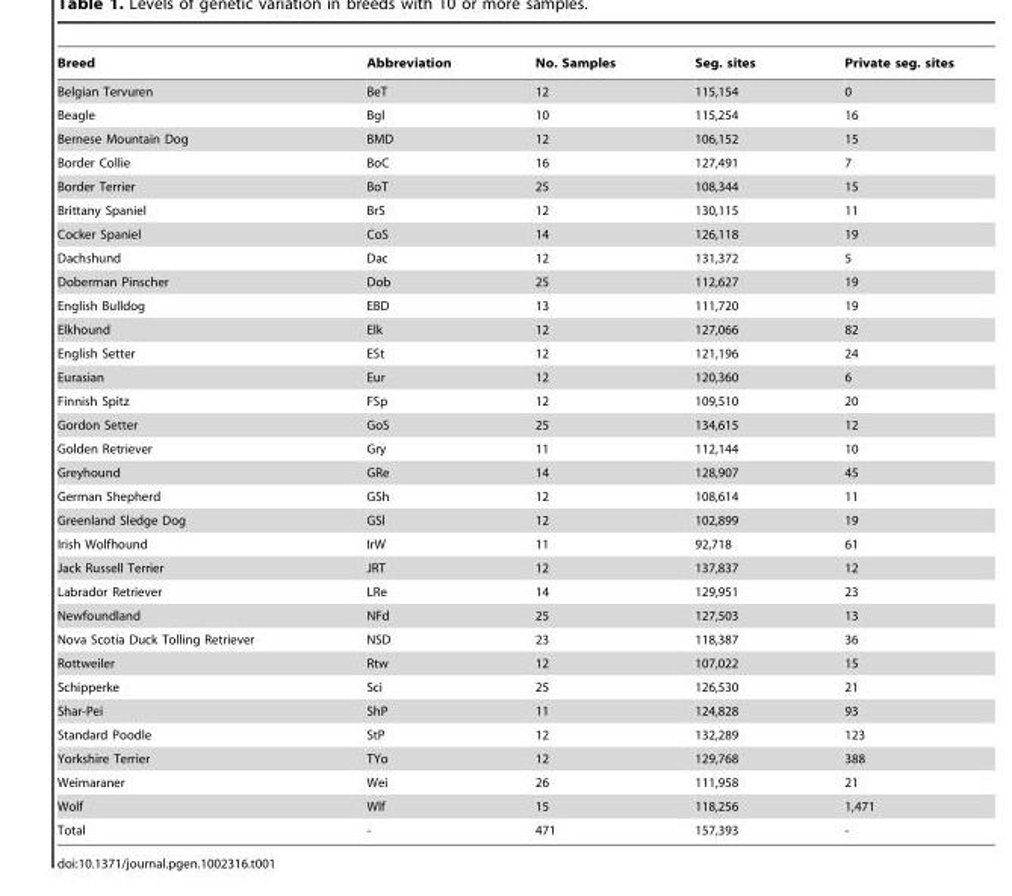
<table><thead><tr><td>Breed</td><td>Abbreviation</td><td>No. Samples</td><td>Seg. sites</td><td>Private seg. sites</td></tr></thead><tbody><tr><td>Belgian Tervuren</td><td>BeT</td><td>12</td><td>115,154</td><td>0</td></tr><tr><td>Beagle</td><td>Bgl</td><td>10</td><td>115,254</td><td>16</td></tr><tr><td>Bernese Mountain Dog</td><td>BMD</td><td>12</td><td>106,152</td><td>15</td></tr><tr><td>Border Collie</td><td>BoC</td><td>16</td><td>127,491</td><td>7</td></tr><tr><td>Border Terrier</td><td>BoT</td><td>25</td><td>108,344</td><td>15</td></tr><tr><td>Brittany Spaniel</td><td>BrS</td><td>12</td><td>130,115</td><td>11</td></tr><tr><td>Cocker Spaniel</td><td>CoS</td><td>14</td><td>126,118</td><td>19</td></tr><tr><td>Dachshund</td><td>Dac</td><td>12</td><td>131,372</td><td>5</td></tr><tr><td>Doberman Pinscher</td><td>Dob</td><td>25</td><td>112,627</td><td>19</td></tr><tr><td>English Bulldog</td><td>EBD</td><td>13</td><td>111,720</td><td>19</td></tr><tr><td>Elkhound</td><td>Elk</td><td>12</td><td>127,066</td><td>82</td></tr><tr><td>English Setter</td><td>ESt</td><td>12</td><td>121,196</td><td>24</td></tr><tr><td>Eurasian</td><td>Eur</td><td>12</td><td>120,360</td><td>6</td></tr><tr><td>Finnish Spitz</td><td>FSp</td><td>12</td><td>109,510</td><td>20</td></tr><tr><td>Gordon Setter</td><td>GoS</td><td>25</td><td>134,615</td><td>12</td></tr><tr><td>Golden Retriever</td><td>Gry</td><td>11</td><td>112,144</td><td>10</td></tr><tr><td>Greyhound</td><td>GRe</td><td>14</td><td>128,907</td><td>45</td></tr><tr><td>German Shepherd</td><td>GSh</td><td>12</td><td>108,614</td><td>11</td></tr><tr><td>Greenland Sledge Dog</td><td>GSl</td><td>12</td><td>102,899</td><td>19</td></tr><tr><td>Irish Wolfhound</td><td>IrW</td><td>11</td><td>92,718</td><td>61</td></tr><tr><td>Jack Russell Terrier</td><td>JRT</td><td>12</td><td>137,837</td><td>12</td></tr><tr><td>Labrador Retriever</td><td>LRe</td><td>14</td><td>129,951</td><td>23</td></tr><tr><td>Newfoundland</td><td>NFd</td><td>25</td><td>127,503</td><td>13</td></tr><tr><td>Nova Scotia Duck Tolling Retriever</td><td>NSD</td><td>23</td><td>118,387</td><td>36</td></tr><tr><td>Rottweiler</td><td>Rtw</td><td>12</td><td>107,022</td><td>15</td></tr><tr><td>Schipperke</td><td>Sci</td><td>25</td><td>126,530</td><td>21</td></tr><tr><td>Shar-Pei</td><td>ShP</td><td>11</td><td>124,828</td><td>93</td></tr><tr><td>Standard Poodle</td><td>StP</td><td>12</td><td>132,289</td><td>123</td></tr><tr><td>Yorkshire Terrier</td><td>TYo</td><td>12</td><td>129,768</td><td>388</td></tr><tr><td>Weimaraner</td><td>Wei</td><td>26</td><td>111,958</td><td>21</td></tr><tr><td>Wolf</td><td>Wlf</td><td>15</td><td>118,256</td><td>1,471</td></tr><tr><td>Total</td><td>-</td><td>471</td><td>157,393</td><td>-</td></tr></tbody></table>